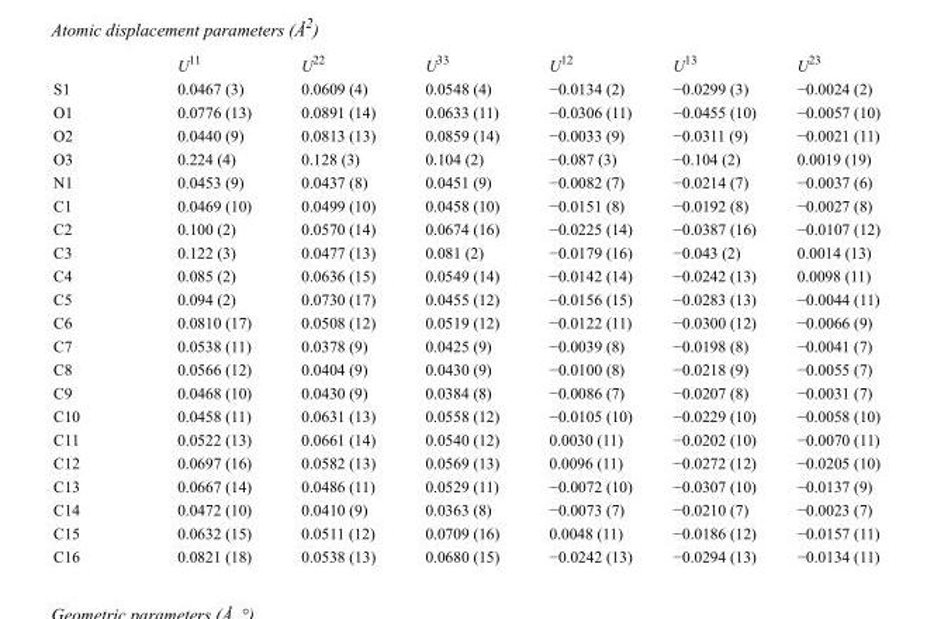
<table><thead><tr><td></td><td>U<sup>11</sup></td><td>U<sup>22</sup></td><td>U<sup>33</sup></td><td>U<sup>12</sup></td><td>U<sup>13</sup></td><td>U<sup>23</sup></td></tr></thead><tbody><tr><td>S1</td><td>0.0467 (3)</td><td>0.0609 (4)</td><td>0.0548 (4)</td><td>−0.0134 (2)</td><td>−0.0299 (3)</td><td>−0.0024 (2)</td></tr><tr><td>O1</td><td>0.0776 (13)</td><td>0.0891 (14)</td><td>0.0633 (11)</td><td>−0.0306 (11)</td><td>−0.0455 (10)</td><td>−0.0057 (10)</td></tr><tr><td>O2</td><td>0.0440 (9)</td><td>0.0813 (13)</td><td>0.0859 (14)</td><td>−0.0033 (9)</td><td>−0.0311 (9)</td><td>−0.0021 (11)</td></tr><tr><td>O3</td><td>0.224 (4)</td><td>0.128 (3)</td><td>0.104 (2)</td><td>−0.087 (3)</td><td>−0.104 (2)</td><td>0.0019 (19)</td></tr><tr><td>N1</td><td>0.0453 (9)</td><td>0.0437 (8)</td><td>0.0451 (9)</td><td>−0.0082 (7)</td><td>−0.0214 (7)</td><td>−0.0037 (6)</td></tr><tr><td>C1</td><td>0.0469 (10)</td><td>0.0499 (10)</td><td>0.0458 (10)</td><td>−0.0151 (8)</td><td>−0.0192 (8)</td><td>−0.0027 (8)</td></tr><tr><td>C2</td><td>0.100 (2)</td><td>0.0570 (14)</td><td>0.0674 (16)</td><td>−0.0225 (14)</td><td>−0.0387 (16)</td><td>−0.0107 (12)</td></tr><tr><td>C3</td><td>0.122 (3)</td><td>0.0477 (13)</td><td>0.081 (2)</td><td>−0.0179 (16)</td><td>−0.043 (2)</td><td>0.0014 (13)</td></tr><tr><td>C4</td><td>0.085 (2)</td><td>0.0636 (15)</td><td>0.0549 (14)</td><td>−0.0142 (14)</td><td>−0.0242 (13)</td><td>0.0098 (11)</td></tr><tr><td>C5</td><td>0.094 (2)</td><td>0.0730 (17)</td><td>0.0455 (12)</td><td>−0.0156 (15)</td><td>−0.0283 (13)</td><td>−0.0044 (11)</td></tr><tr><td>C6</td><td>0.0810 (17)</td><td>0.0508 (12)</td><td>0.0519 (12)</td><td>−0.0122 (11)</td><td>−0.0300 (12)</td><td>−0.0066 (9)</td></tr><tr><td>C7</td><td>0.0538 (11)</td><td>0.0378 (9)</td><td>0.0425 (9)</td><td>−0.0039 (8)</td><td>−0.0198 (8)</td><td>−0.0041 (7)</td></tr><tr><td>C8</td><td>0.0566 (12)</td><td>0.0404 (9)</td><td>0.0430 (9)</td><td>−0.0100 (8)</td><td>−0.0218 (9)</td><td>−0.0055 (7)</td></tr><tr><td>C9</td><td>0.0468 (10)</td><td>0.0430 (9)</td><td>0.0384 (8)</td><td>−0.0086 (7)</td><td>−0.0207 (8)</td><td>−0.0031 (7)</td></tr><tr><td>C10</td><td>0.0458 (11)</td><td>0.0631 (13)</td><td>0.0558 (12)</td><td>−0.0105 (10)</td><td>−0.0229 (10)</td><td>−0.0058 (10)</td></tr><tr><td>C11</td><td>0.0522 (13)</td><td>0.0661 (14)</td><td>0.0540 (12)</td><td>0.0030 (11)</td><td>−0.0202 (10)</td><td>−0.0070 (11)</td></tr><tr><td>C12</td><td>0.0697 (16)</td><td>0.0582 (13)</td><td>0.0569 (13)</td><td>0.0096 (11)</td><td>−0.0272 (12)</td><td>−0.0205 (10)</td></tr><tr><td>C13</td><td>0.0667 (14)</td><td>0.0486 (11)</td><td>0.0529 (11)</td><td>−0.0072 (10)</td><td>−0.0307 (10)</td><td>−0.0137 (9)</td></tr><tr><td>C14</td><td>0.0472 (10)</td><td>0.0410 (9)</td><td>0.0363 (8)</td><td>−0.0073 (7)</td><td>−0.0210 (7)</td><td>−0.0023 (7)</td></tr><tr><td>C15</td><td>0.0632 (15)</td><td>0.0511 (12)</td><td>0.0709 (16)</td><td>0.0048 (11)</td><td>−0.0186 (12)</td><td>−0.0157 (11)</td></tr><tr><td>C16</td><td>0.0821 (18)</td><td>0.0538 (13)</td><td>0.0680 (15)</td><td>−0.0242 (13)</td><td>−0.0294 (13)</td><td>−0.0134 (11)</td></tr></tbody></table>